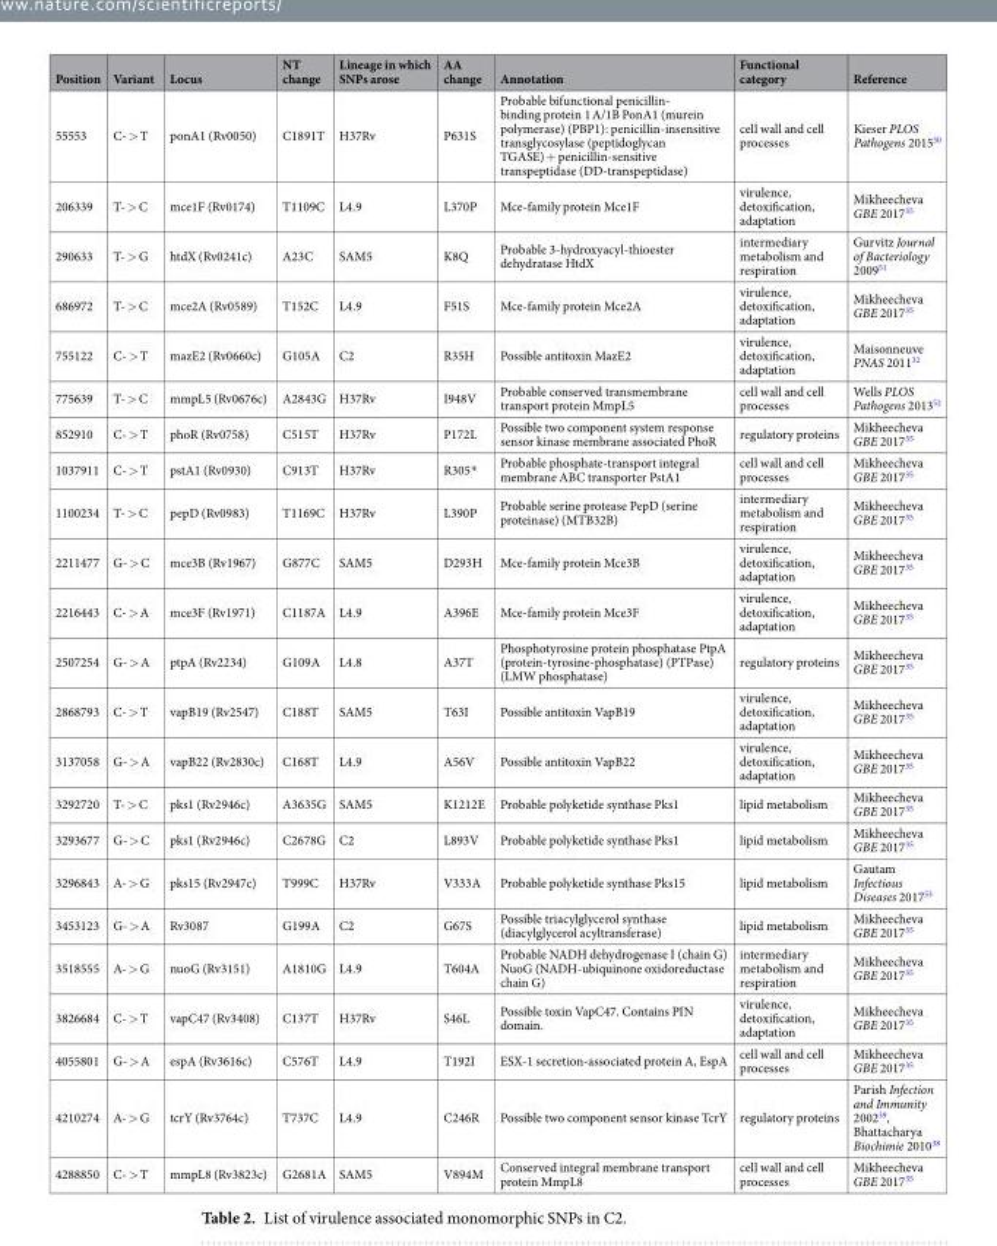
<table><thead><tr><td>Position</td><td>Variant</td><td>Locus</td><td>NT change</td><td>Lineage in which SNPs arose</td><td>AA change</td><td>Annotation</td><td>Functional category</td><td>Reference</td></tr></thead><tbody><tr><td>55553</td><td>C- &gt; T</td><td>ponA1 (Rv0050)</td><td>C1891T</td><td>H37Rv</td><td>P631S</td><td>Probable bifunctional penicillin- binding protein 1 A/1B PonA1 (murein polymerase) (PBP1): penicillin-insensitive transglycosylase (peptidoglycan TGASE) + penicillin-sensitive transpeptidase (DD-transpeptidase)</td><td>cell wall and cell processes</td><td>Kieser PLOS Pathogens 2015<sup>50</sup></td></tr><tr><td>206339</td><td>T- &gt; C</td><td>mce1F (Rv0174)</td><td>T1109C</td><td>L4.9</td><td>L370P</td><td>Mce-family protein Mce1F</td><td>virulence, detoxification, adaptation</td><td>Mikheecheva GBE 2017<sup>35</sup></td></tr><tr><td>290633</td><td>T- &gt; G</td><td>htdX (Rv0241c)</td><td>A23C</td><td>SAM5</td><td>K8Q</td><td>Probable 3-hydroxyacyl-thioester dehydratase HtdX</td><td>intermediary metabolism and respiration</td><td>Gurvitz Journal of Bacteriology 2009<sup>51</sup></td></tr><tr><td>686972</td><td>T- &gt; C</td><td>mce2A (Rv0589)</td><td>T152C</td><td>L4.9</td><td>F51S</td><td>Mce-family protein Mce2A</td><td>virulence, detoxification, adaptation</td><td>Mikheecheva GBE 2017<sup>35</sup></td></tr><tr><td>755122</td><td>C- &gt; T</td><td>mazE2 (Rv0660c)</td><td>G105A</td><td>C2</td><td>R35H</td><td>Possible antitoxin MazE2</td><td>virulence, detoxification, adaptation</td><td>Maisonneuve PNAS 2011<sup>32</sup></td></tr><tr><td>775639</td><td>T- &gt; C</td><td>mmpL5 (Rv0676c)</td><td>A2843G</td><td>H37Rv</td><td>I948V</td><td>Probable conserved transmembrane transport protein MmpL5</td><td>cell wall and cell processes</td><td>Wells PLOS Pathogens 2013<sup>52</sup></td></tr><tr><td>852910</td><td>C- &gt; T</td><td>phoR (Rv0758)</td><td>C515T</td><td>H37Rv</td><td>P172L</td><td>Possible two component system response sensor kinase membrane associated PhoR</td><td>regulatory proteins</td><td>Mikheecheva GBE 2017<sup>35</sup></td></tr><tr><td>1037911</td><td>C- &gt; T</td><td>pstA1 (Rv0930)</td><td>C913T</td><td>H37Rv</td><td>R305*</td><td>Probable phosphate-transport integral membrane ABC transporter PstA1</td><td>cell wall and cell processes</td><td>Mikheecheva GBE 2017<sup>35</sup></td></tr><tr><td>1100234</td><td>T- &gt; C</td><td>pepD (Rv0983)</td><td>T1169C</td><td>H37Rv</td><td>L390P</td><td>Probable serine protease PepD (serine proteinase) (MTB32B)</td><td>intermediary metabolism and respiration</td><td>Mikheecheva GBE 2017<sup>35</sup></td></tr><tr><td>2211477</td><td>G- &gt; C</td><td>mce3B (Rv1967)</td><td>G877C</td><td>SAM5</td><td>D293H</td><td>Mce-family protein Mce3B</td><td>virulence, detoxification, adaptation</td><td>Mikheecheva GBE 2017<sup>35</sup></td></tr><tr><td>2216443</td><td>C- &gt; A</td><td>mce3F (Rv1971)</td><td>C1187A</td><td>L4.9</td><td>A396E</td><td>Mce-family protein Mce3F</td><td>virulence, detoxification, adaptation</td><td>Mikheecheva GBE 2017<sup>35</sup></td></tr><tr><td>2507254</td><td>G- &gt; A</td><td>ptpA (Rv2234)</td><td>G109A</td><td>L4.8</td><td>A37T</td><td>Phosphotyrosine protein phosphatase PtpA (protein-tyrosine-phosphatase) (PTPase) (LMW phosphatase)</td><td>regulatory proteins</td><td>Mikheecheva GBE 2017<sup>35</sup></td></tr><tr><td>2868793</td><td>C- &gt; T</td><td>vapB19 (Rv2547)</td><td>C188T</td><td>SAM5</td><td>T63I</td><td>Possible antitoxin VapB19</td><td>virulence, detoxification, adaptation</td><td>Mikheecheva GBE 2017<sup>35</sup></td></tr><tr><td>3137058</td><td>G- &gt; A</td><td>vapB22 (Rv2830c)</td><td>C168T</td><td>L4.9</td><td>A56V</td><td>Possible antitoxin VapB22</td><td>virulence, detoxification, adaptation</td><td>Mikheecheva GBE 2017<sup>35</sup></td></tr><tr><td>3292720</td><td>T- &gt; C</td><td>pks1 (Rv2946c)</td><td>A3635G</td><td>SAM5</td><td>K1212E</td><td>Probable polyketide synthase Pks1</td><td>lipid metabolism</td><td>Mikheecheva GBE 2017<sup>35</sup></td></tr><tr><td>3293677</td><td>G- &gt; C</td><td>pks1 (Rv2946c)</td><td>C2678G</td><td>C2</td><td>L893V</td><td>Probable polyketide synthase Pks1</td><td>lipid metabolism</td><td>Mikheecheva GBE 2017<sup>35</sup></td></tr><tr><td>3296843</td><td>A- &gt; G</td><td>pks15 (Rv2947c)</td><td>T999C</td><td>H37Rv</td><td>V333A</td><td>Probable polyketide synthase Pks15</td><td>lipid metabolism</td><td>Gautam Infectious Diseases 2017<sup>53</sup></td></tr><tr><td>3453123</td><td>G- &gt; A</td><td>Rv3087</td><td>G199A</td><td>C2</td><td>G67S</td><td>Possible triacylglycerol synthase (diacylglycerol acyltransferase)</td><td>lipid metabolism</td><td>Mikheecheva GBE 2017<sup>35</sup></td></tr><tr><td>3518555</td><td>A- &gt; G</td><td>nuoG (Rv3151)</td><td>A1810G</td><td>L4.9</td><td>T604A</td><td>Probable NADH dehydrogenase I (chain G) NuoG (NADH-ubiquinone oxidoreductase chain G)</td><td>intermediary metabolism and respiration</td><td>Mikheecheva GBE 2017<sup>35</sup></td></tr><tr><td>3826684</td><td>C- &gt; T</td><td>vapC47 (Rv3408)</td><td>C137T</td><td>H37Rv</td><td>S46L</td><td>Possible toxin VapC47. Contains PIN domain.</td><td>virulence, detoxification, adaptation</td><td>Mikheecheva GBE 2017<sup>35</sup></td></tr><tr><td>4055801</td><td>G- &gt; A</td><td>espA (Rv3616c)</td><td>C576T</td><td>L4.9</td><td>T192I</td><td>ESX-1 secretion-associated protein A, EspA</td><td>cell wall and cell processes</td><td>Mikheecheva GBE 2017<sup>35</sup></td></tr><tr><td>4210274</td><td>A- &gt; G</td><td>tcrY (Rv3764c)</td><td>T737C</td><td>L4.9</td><td>C246R</td><td>Possible two component sensor kinase TcrY</td><td>regulatory proteins</td><td>Parish Infection and Immunity 2002<sup>39</sup>, Bhattacharya Biochimie 2010<sup>38</sup></td></tr><tr><td>4288850</td><td>C- &gt; T</td><td>mmpL8 (Rv3823c)</td><td>G2681A</td><td>SAM5</td><td>V894M</td><td>Conserved integral membrane transport protein MmpL8</td><td>cell wall and cell processes</td><td>Mikheecheva GBE 2017<sup>35</sup></td></tr></tbody></table>